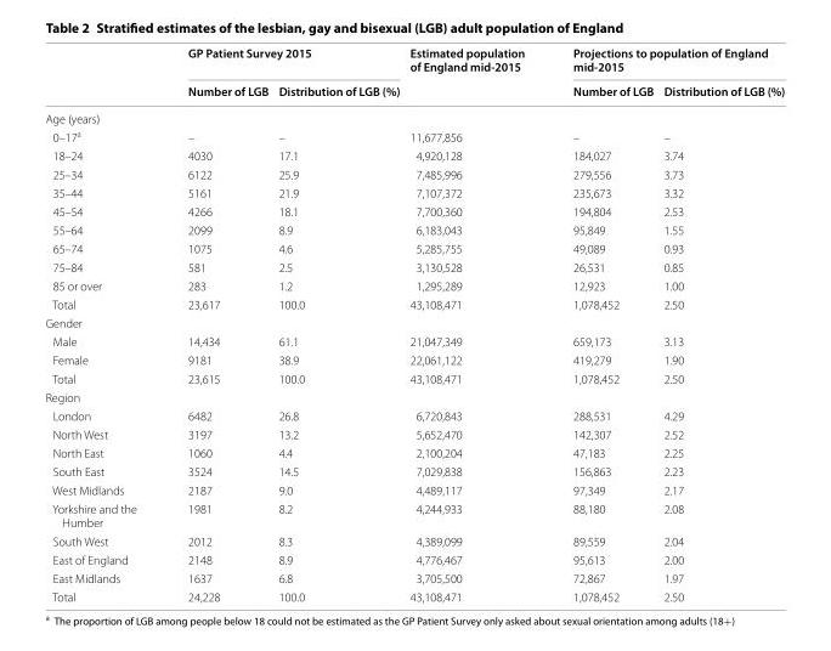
<table><thead><tr><td rowspan="2"></td><td colspan="2">GP Patient Survey 2015</td><td rowspan="2">Estimated population of England mid-2015</td><td colspan="2">Projections to population of England mid-2015</td></tr><tr><td>Number of LGB</td><td>Distribution of LGB (%)</td><td>Number of LGB</td><td>Distribution of LGB (%)</td></tr></thead><tbody><tr><td colspan="6">Age (years)</td></tr><tr><td>0–17<sup>a</sup></td><td>–</td><td>–</td><td>11,677,856</td><td>–</td><td>–</td></tr><tr><td>18–24</td><td>4030</td><td>17.1</td><td>4,920,128</td><td>184,027</td><td>3.74</td></tr><tr><td>25–34</td><td>6122</td><td>25.9</td><td>7,485,996</td><td>279,556</td><td>3.73</td></tr><tr><td>35–44</td><td>5161</td><td>21.9</td><td>7,107,372</td><td>235,673</td><td>3.32</td></tr><tr><td>45–54</td><td>4266</td><td>18.1</td><td>7,700,360</td><td>194,804</td><td>2.53</td></tr><tr><td>55–64</td><td>2099</td><td>8.9</td><td>6,183,043</td><td>95,849</td><td>1.55</td></tr><tr><td>65–74</td><td>1075</td><td>4.6</td><td>5,285,755</td><td>49,089</td><td>0.93</td></tr><tr><td>75–84</td><td>581</td><td>2.5</td><td>3,130,528</td><td>26,531</td><td>0.85</td></tr><tr><td>85 or over</td><td>283</td><td>1.2</td><td>1,295,289</td><td>12,923</td><td>1.00</td></tr><tr><td>Total</td><td>23,617</td><td>100.0</td><td>43,108,471</td><td>1,078,452</td><td>2.50</td></tr><tr><td colspan="6">Gender</td></tr><tr><td>Male</td><td>14,434</td><td>61.1</td><td>21,047,349</td><td>659,173</td><td>3.13</td></tr><tr><td>Female</td><td>9181</td><td>38.9</td><td>22,061,122</td><td>419,279</td><td>1.90</td></tr><tr><td>Total</td><td>23,615</td><td>100.0</td><td>43,108,471</td><td>1,078,452</td><td>2.50</td></tr><tr><td colspan="6">Region</td></tr><tr><td>London</td><td>6482</td><td>26.8</td><td>6,720,843</td><td>288,531</td><td>4.29</td></tr><tr><td>North West</td><td>3197</td><td>13.2</td><td>5,652,470</td><td>142,307</td><td>2.52</td></tr><tr><td>North East</td><td>1060</td><td>4.4</td><td>2,100,204</td><td>47,183</td><td>2.25</td></tr><tr><td>South East</td><td>3524</td><td>14.5</td><td>7,029,838</td><td>156,863</td><td>2.23</td></tr><tr><td>West Midlands</td><td>2187</td><td>9.0</td><td>4,489,117</td><td>97,349</td><td>2.17</td></tr><tr><td>Yorkshire and the Humber</td><td>1981</td><td>8.2</td><td>4,244,933</td><td>88,180</td><td>2.08</td></tr><tr><td>South West</td><td>2012</td><td>8.3</td><td>4,389,099</td><td>89,559</td><td>2.04</td></tr><tr><td>East of England</td><td>2148</td><td>8.9</td><td>4,776,467</td><td>95,613</td><td>2.00</td></tr><tr><td>East Midlands</td><td>1637</td><td>6.8</td><td>3,705,500</td><td>72,867</td><td>1.97</td></tr><tr><td>Total</td><td>24,228</td><td>100.0</td><td>43,108,471</td><td>1,078,452</td><td>2.50</td></tr></tbody></table>